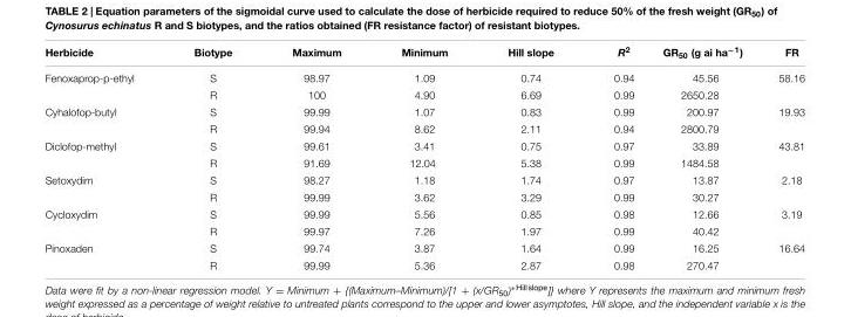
<table><thead><tr><td>Herbicide</td><td>Biotype</td><td>Maximum</td><td>Minimum</td><td>Hill slope</td><td>R<sup>2</sup></td><td>GR<sub>50</sub> (g ai ha<sup>−1</sup>)</td><td>FR</td></tr></thead><tbody><tr><td rowspan="2">Fenoxaprop-p-ethyl</td><td>S</td><td>98.97</td><td>1.09</td><td>0.74</td><td>0.94</td><td>45.56</td><td>58.16</td></tr><tr><td>R</td><td>100</td><td>4.90</td><td>6.69</td><td>0.99</td><td>2650.28</td><td></td></tr><tr><td rowspan="2">Cyhalofop-butyl</td><td>S</td><td>99.99</td><td>1.07</td><td>0.83</td><td>0.99</td><td>200.97</td><td>19.93</td></tr><tr><td>R</td><td>99.94</td><td>8.62</td><td>2.11</td><td>0.94</td><td>2800.79</td><td></td></tr><tr><td rowspan="2">Diclofop-methyl</td><td>S</td><td>99.61</td><td>3.41</td><td>0.75</td><td>0.97</td><td>33.89</td><td>43.81</td></tr><tr><td>R</td><td>91.69</td><td>12.04</td><td>5.38</td><td>0.99</td><td>1484.58</td><td></td></tr><tr><td rowspan="2">Setoxydim</td><td>S</td><td>98.27</td><td>1.18</td><td>1.74</td><td>0.97</td><td>13.87</td><td>2.18</td></tr><tr><td>R</td><td>99.99</td><td>3.62</td><td>3.29</td><td>0.99</td><td>30.27</td><td></td></tr><tr><td rowspan="2">Cycloxydim</td><td>S</td><td>99.99</td><td>5.56</td><td>0.85</td><td>0.98</td><td>12.66</td><td>3.19</td></tr><tr><td>R</td><td>99.97</td><td>7.26</td><td>1.97</td><td>0.99</td><td>40.42</td><td></td></tr><tr><td rowspan="2">Pinoxaden</td><td>S</td><td>99.74</td><td>3.87</td><td>1.64</td><td>0.99</td><td>16.25</td><td>16.64</td></tr><tr><td>R</td><td>99.99</td><td>5.36</td><td>2.87</td><td>0.98</td><td>270.47</td><td></td></tr></tbody></table>